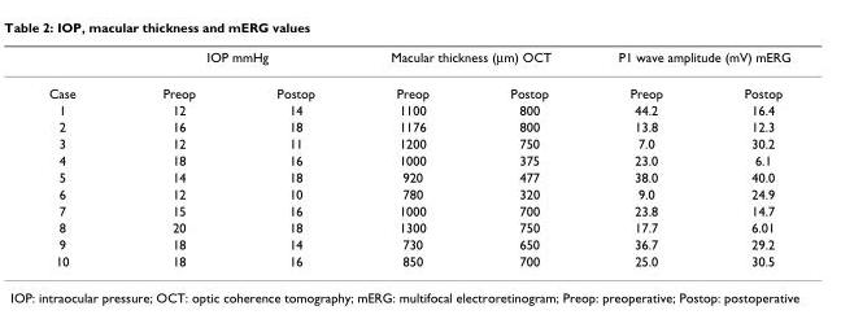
<table><thead><tr><td rowspan="2">Case</td><td colspan="2">IOP mmHg</td><td colspan="2">Macular thickness (µm) OCT</td><td colspan="2">P1 wave amplitude (mV) mERG</td></tr><tr><td>Preop</td><td>Postop</td><td>Preop</td><td>Postop</td><td>Preop</td><td>Postop</td></tr></thead><tbody><tr><td>1</td><td>12</td><td>14</td><td>1100</td><td>800</td><td>44.2</td><td>16.4</td></tr><tr><td>2</td><td>16</td><td>18</td><td>1176</td><td>800</td><td>13.8</td><td>12.3</td></tr><tr><td>3</td><td>12</td><td>11</td><td>1200</td><td>750</td><td>7.0</td><td>30.2</td></tr><tr><td>4</td><td>18</td><td>16</td><td>1000</td><td>375</td><td>23.0</td><td>6.1</td></tr><tr><td>5</td><td>14</td><td>18</td><td>920</td><td>477</td><td>38.0</td><td>40.0</td></tr><tr><td>6</td><td>12</td><td>10</td><td>780</td><td>320</td><td>9.0</td><td>24.9</td></tr><tr><td>7</td><td>15</td><td>16</td><td>1000</td><td>700</td><td>23.8</td><td>14.7</td></tr><tr><td>8</td><td>20</td><td>18</td><td>1300</td><td>750</td><td>17.7</td><td>6.01</td></tr><tr><td>9</td><td>18</td><td>14</td><td>730</td><td>650</td><td>36.7</td><td>29.2</td></tr><tr><td>10</td><td>18</td><td>16</td><td>850</td><td>700</td><td>25.0</td><td>30.5</td></tr></tbody></table>